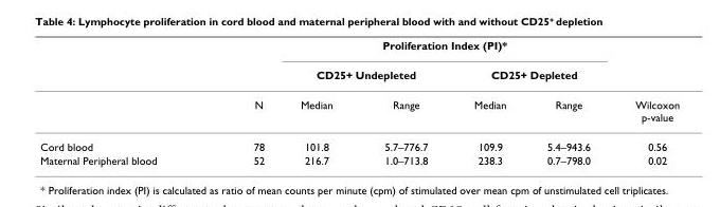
<table><thead><tr><td rowspan="3"></td><td rowspan="3">N</td><td colspan="4">Proliferation Index (PI)*</td><td rowspan="3">Wilcoxon p-value</td></tr><tr><td colspan="2">CD25+ Undepleted</td><td colspan="2">CD25+ Depleted</td></tr><tr><td>Median</td><td>Range</td><td>Median</td><td>Range</td></tr></thead><tbody><tr><td>Cord blood</td><td>78</td><td>101.8</td><td>5.7–776.7</td><td>109.9</td><td>5.4–943.6</td><td>0.56</td></tr><tr><td>Maternal Peripheral blood</td><td>52</td><td>216.7</td><td>1.0–713.8</td><td>238.3</td><td>0.7–798.0</td><td>0.02</td></tr></tbody></table>